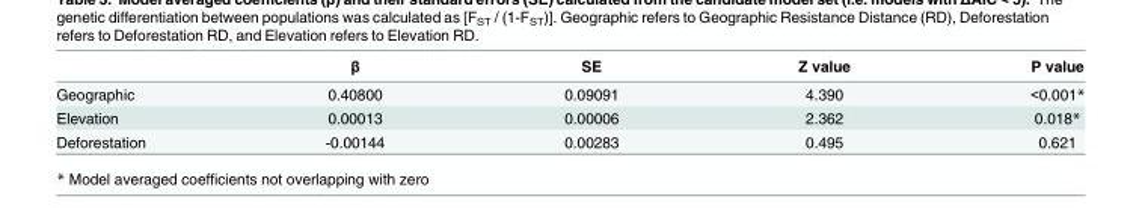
<table><thead><tr><td></td><td>β</td><td>SE</td><td>Z value</td><td>P value</td></tr></thead><tbody><tr><td>Geographic</td><td>0.40800</td><td>0.09091</td><td>4.390</td><td>&lt;0.001*</td></tr><tr><td>Elevation</td><td>0.00013</td><td>0.00006</td><td>2.362</td><td>0.018*</td></tr><tr><td>Deforestation</td><td>-0.00144</td><td>0.00283</td><td>0.495</td><td>0.621</td></tr></tbody></table>